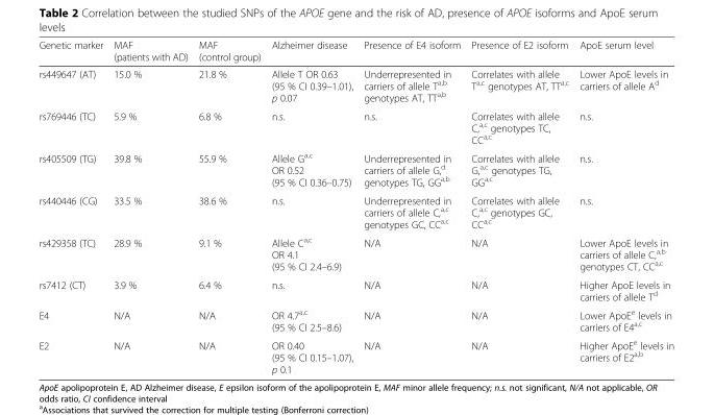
<table><thead><tr><td>Genetic marker</td><td>MAF (patients with AD)</td><td>MAF (control group)</td><td>Alzheimer disease</td><td>Presence of E4 isoform</td><td>Presence of E2 isoform</td><td>ApoE serum level</td></tr></thead><tbody><tr><td>rs449647 (AT)</td><td>15.0 %</td><td>21.8 %</td><td>Allele T OR 0.63 (95 % CI 0.39–1.01), p 0.07</td><td>Underrepresented in carriers of allele T<sup>a,b</sup> genotypes AT, TT<sup>a,b</sup></td><td>Correlates with allele T<sup>a,c</sup> genotypes AT, TT<sup>a,c</sup></td><td>Lower ApoE levels in carriers of allele A<sup>d</sup></td></tr><tr><td>rs769446 (TC)</td><td>5.9 %</td><td>6.8 %</td><td>n.s.</td><td>n.s.</td><td>Correlates with allele C,<sup>a,c</sup> genotypes TC, CC<sup>a,c</sup></td><td>n.s.</td></tr><tr><td>rs405509 (TG)</td><td>39.8 %</td><td>55.9 %</td><td>Allele G<sup>a,c</sup> OR 0.52 (95 % CI 0.36–0.75)</td><td>Underrepresented in carriers of allele G,<sup>d</sup> genotypes TG, GG<sup>a,b</sup></td><td>Correlates with allele G,<sup>a,c</sup> genotypes TG, GG<sup>a,c</sup></td><td>n.s.</td></tr><tr><td>rs440446 (CG)</td><td>33.5 %</td><td>38.6 %</td><td>n.s.</td><td>Underrepresented in carriers of allele C,<sup>a,c</sup> genotypes GC, CC<sup>a,c</sup></td><td>Correlates with allele C,<sup>a,c</sup> genotypes GC, CC<sup>a,c</sup></td><td>n.s.</td></tr><tr><td>rs429358 (TC)</td><td>28.9 %</td><td>9.1 %</td><td>Allele C<sup>a,c</sup> OR 4.1 (95 % CI 2.4–6.9)</td><td>N/A</td><td>N/A</td><td>Lower ApoE levels in carriers of allele C,<sup>a,b</sup> genotypes CT, CC<sup>a,c</sup></td></tr><tr><td>rs7412 (CT)</td><td>3.9 %</td><td>6.4 %</td><td>n.s.</td><td>N/A</td><td>N/A</td><td>Higher ApoE levels in carriers of allele T<sup>d</sup></td></tr><tr><td>E4</td><td>N/A</td><td>N/A</td><td>OR 4.7<sup>a,c</sup> (95 % CI 2.5–8.6)</td><td>N/A</td><td>N/A</td><td>Lower ApoE<sup>e</sup> levels in carriers of E4<sup>a,c</sup></td></tr><tr><td>E2</td><td>N/A</td><td>N/A</td><td>OR 0.40 (95 % CI 0.15–1.07), p 0.1</td><td>N/A</td><td>N/A</td><td>Higher ApoE<sup>e</sup> levels in carriers of E2<sup>a,b</sup></td></tr></tbody></table>